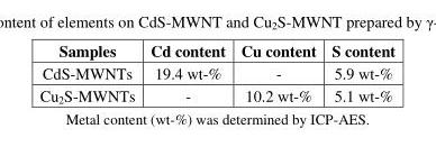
<table><thead><tr><td>Samples</td><td>Cd content</td><td>Cu content</td><td>S content</td></tr></thead><tbody><tr><td>CdS-MWNTs</td><td>19.4 wt-%</td><td>-</td><td>5.9 wt-%</td></tr><tr><td>Cu<sub>2</sub>S-MWNTs</td><td>-</td><td>10.2 wt-%</td><td>5.1 wt-%</td></tr></tbody></table>